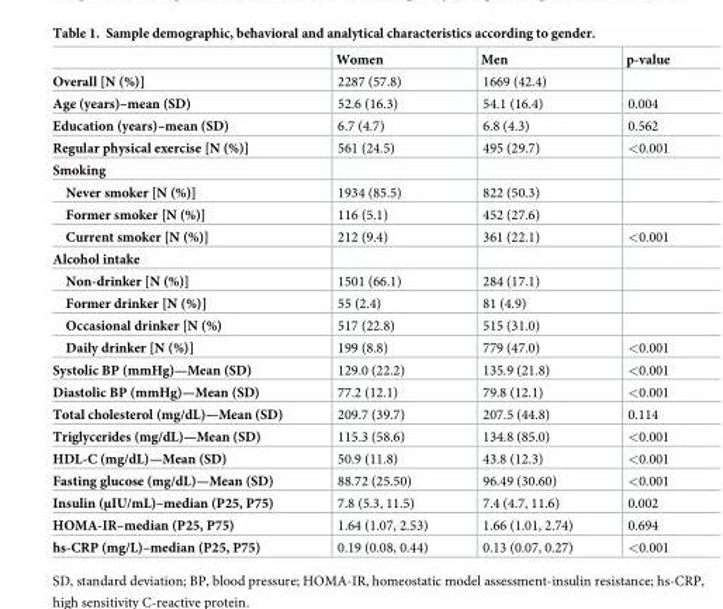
<table><thead><tr><td></td><td>Women</td><td>Men</td><td>p-value</td></tr></thead><tbody><tr><td>Overall [N (%)]</td><td>2287 (57.8)</td><td>1669 (42.4)</td><td></td></tr><tr><td>Age (years)–mean (SD)</td><td>52.6 (16.3)</td><td>54.1 (16.4)</td><td>0.004</td></tr><tr><td>Education (years)–mean (SD)</td><td>6.7 (4.7)</td><td>6.8 (4.3)</td><td>0.562</td></tr><tr><td>Regular physical exercise [N (%)]</td><td>561 (24.5)</td><td>495 (29.7)</td><td>&lt;0.001</td></tr><tr><td colspan="4">Smoking</td></tr><tr><td>Never smoker [N (%)]</td><td>1934 (85.5)</td><td>822 (50.3)</td><td></td></tr><tr><td>Former smoker [N (%)]</td><td>116 (5.1)</td><td>452 (27.6)</td><td></td></tr><tr><td>Current smoker [N (%)]</td><td>212 (9.4)</td><td>361 (22.1)</td><td>&lt;0.001</td></tr><tr><td colspan="4">Alcohol intake</td></tr><tr><td>Non-drinker [N (%)]</td><td>1501 (66.1)</td><td>284 (17.1)</td><td></td></tr><tr><td>Former drinker [N (%)]</td><td>55 (2.4)</td><td>81 (4.9)</td><td></td></tr><tr><td>Occasional drinker [N (%)</td><td>517 (22.8)</td><td>515 (31.0)</td><td></td></tr><tr><td>Daily drinker [N (%)]</td><td>199 (8.8)</td><td>779 (47.0)</td><td>&lt;0.001</td></tr><tr><td>Systolic BP (mmHg)—Mean (SD)</td><td>129.0 (22.2)</td><td>135.9 (21.8)</td><td>&lt;0.001</td></tr><tr><td>Diastolic BP (mmHg)—Mean (SD)</td><td>77.2 (12.1)</td><td>79.8 (12.1)</td><td>&lt;0.001</td></tr><tr><td>Total cholesterol (mg/dL)—Mean (SD)</td><td>209.7 (39.7)</td><td>207.5 (44.8)</td><td>0.114</td></tr><tr><td>Triglycerides (mg/dL)—Mean (SD)</td><td>115.3 (58.6)</td><td>134.8 (85.0)</td><td>&lt;0.001</td></tr><tr><td>HDL-C (mg/dL)—Mean (SD)</td><td>50.9 (11.8)</td><td>43.8 (12.3)</td><td>&lt;0.001</td></tr><tr><td>Fasting glucose (mg/dL)—Mean (SD)</td><td>88.72 (25.50)</td><td>96.49 (30.60)</td><td>&lt;0.001</td></tr><tr><td>Insulin (μIU/mL)–median (P25, P75)</td><td>7.8 (5.3, 11.5)</td><td>7.4 (4.7, 11.6)</td><td>0.002</td></tr><tr><td>HOMA-IR–median (P25, P75)</td><td>1.64 (1.07, 2.53)</td><td>1.66 (1.01, 2.74)</td><td>0.694</td></tr><tr><td>hs-CRP (mg/L)–median (P25, P75)</td><td>0.19 (0.08, 0.44)</td><td>0.13 (0.07, 0.27)</td><td>&lt;0.001</td></tr></tbody></table>